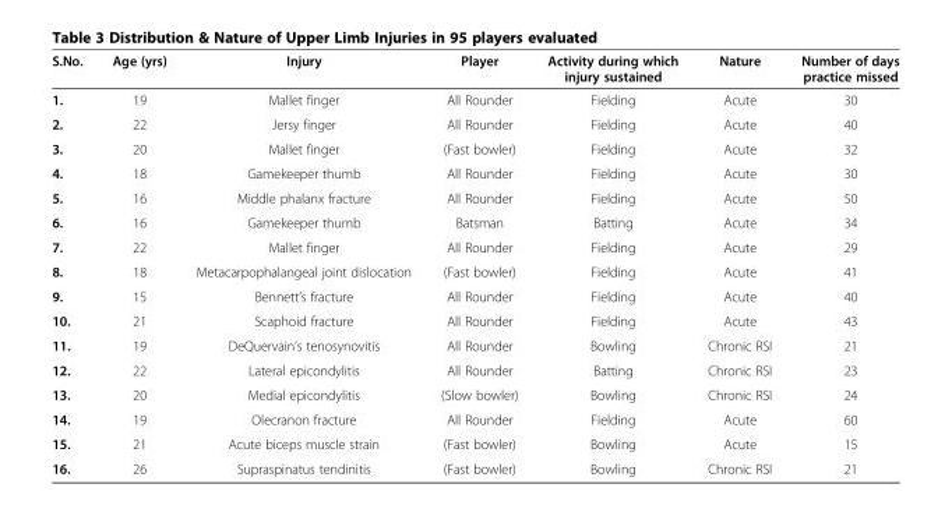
<table><thead><tr><td>S.No.</td><td>Age (yrs)</td><td>Injury</td><td>Player</td><td>Activity during which injury sustained</td><td>Nature</td><td>Number of days practice missed</td></tr></thead><tbody><tr><td>1.</td><td>19</td><td>Mallet finger</td><td>All Rounder</td><td>Fielding</td><td>Acute</td><td>30</td></tr><tr><td>2.</td><td>22</td><td>Jersy finger</td><td>All Rounder</td><td>Fielding</td><td>Acute</td><td>40</td></tr><tr><td>3.</td><td>20</td><td>Mallet finger</td><td>(Fast bowler)</td><td>Fielding</td><td>Acute</td><td>32</td></tr><tr><td>4.</td><td>18</td><td>Gamekeeper thumb</td><td>All Rounder</td><td>Fielding</td><td>Acute</td><td>30</td></tr><tr><td>5.</td><td>16</td><td>Middle phalanx fracture</td><td>All Rounder</td><td>Fielding</td><td>Acute</td><td>50</td></tr><tr><td>6.</td><td>16</td><td>Gamekeeper thumb</td><td>Batsman</td><td>Batting</td><td>Acute</td><td>34</td></tr><tr><td>7.</td><td>22</td><td>Mallet finger</td><td>All Rounder</td><td>Fielding</td><td>Acute</td><td>29</td></tr><tr><td>8.</td><td>18</td><td>Metacarpophalangeal joint dislocation</td><td>(Fast bowler)</td><td>Fielding</td><td>Acute</td><td>41</td></tr><tr><td>9.</td><td>15</td><td>Bennett’s fracture</td><td>All Rounder</td><td>Fielding</td><td>Acute</td><td>40</td></tr><tr><td>10.</td><td>21</td><td>Scaphoid fracture</td><td>All Rounder</td><td>Fielding</td><td>Acute</td><td>43</td></tr><tr><td>11.</td><td>19</td><td>DeQuervain’s tenosynovitis</td><td>All Rounder</td><td>Bowling</td><td>Chronic RSI</td><td>21</td></tr><tr><td>12.</td><td>22</td><td>Lateral epicondylitis</td><td>All Rounder</td><td>Batting</td><td>Chronic RSI</td><td>23</td></tr><tr><td>13.</td><td>20</td><td>Medial epicondylitis</td><td>(Slow bowler)</td><td>Bowling</td><td>Chronic RSI</td><td>24</td></tr><tr><td>14.</td><td>19</td><td>Olecranon fracture</td><td>All Rounder</td><td>Fielding</td><td>Acute</td><td>60</td></tr><tr><td>15.</td><td>21</td><td>Acute biceps muscle strain</td><td>(Fast bowler)</td><td>Bowling</td><td>Acute</td><td>15</td></tr><tr><td>16.</td><td>26</td><td>Supraspinatus tendinitis</td><td>(Fast bowler)</td><td>Bowling</td><td>Chronic RSI</td><td>21</td></tr></tbody></table>